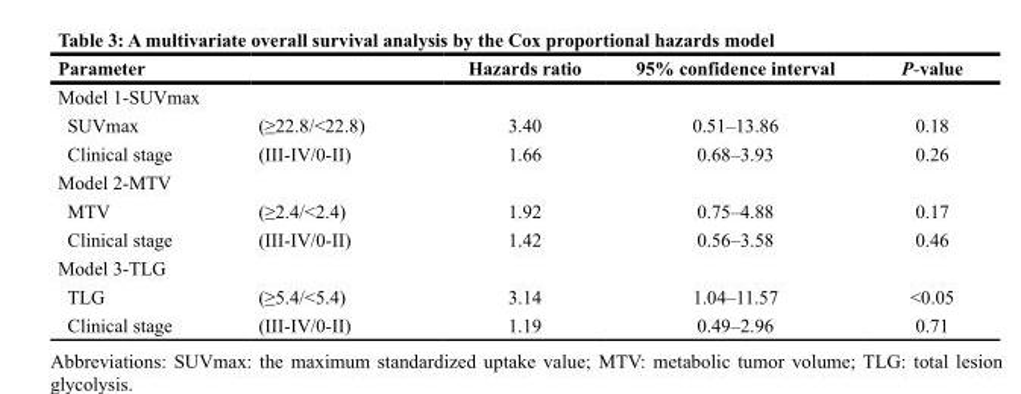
<table><thead><tr><td>Parameter</td><td></td><td>Hazards ratio</td><td>95% confidence interval</td><td>P-value</td></tr></thead><tbody><tr><td colspan="5">Model 1-SUVmax</td></tr><tr><td>SUVmax</td><td>(≥22.8/&lt;22.8)</td><td>3.40</td><td>0.51–13.86</td><td>0.18</td></tr><tr><td>Clinical stage</td><td>(III-IV/0-II)</td><td>1.66</td><td>0.68–3.93</td><td>0.26</td></tr><tr><td colspan="5">Model 2-MTV</td></tr><tr><td>MTV</td><td>(≥2.4/&lt;2.4)</td><td>1.92</td><td>0.75–4.88</td><td>0.17</td></tr><tr><td>Clinical stage</td><td>(III-IV/0-II)</td><td>1.42</td><td>0.56–3.58</td><td>0.46</td></tr><tr><td colspan="5">Model 3-TLG</td></tr><tr><td>TLG</td><td>(≥5.4/&lt;5.4)</td><td>3.14</td><td>1.04–11.57</td><td>&lt;0.05</td></tr><tr><td>Clinical stage</td><td>(III-IV/0-II)</td><td>1.19</td><td>0.49–2.96</td><td>0.71</td></tr></tbody></table>